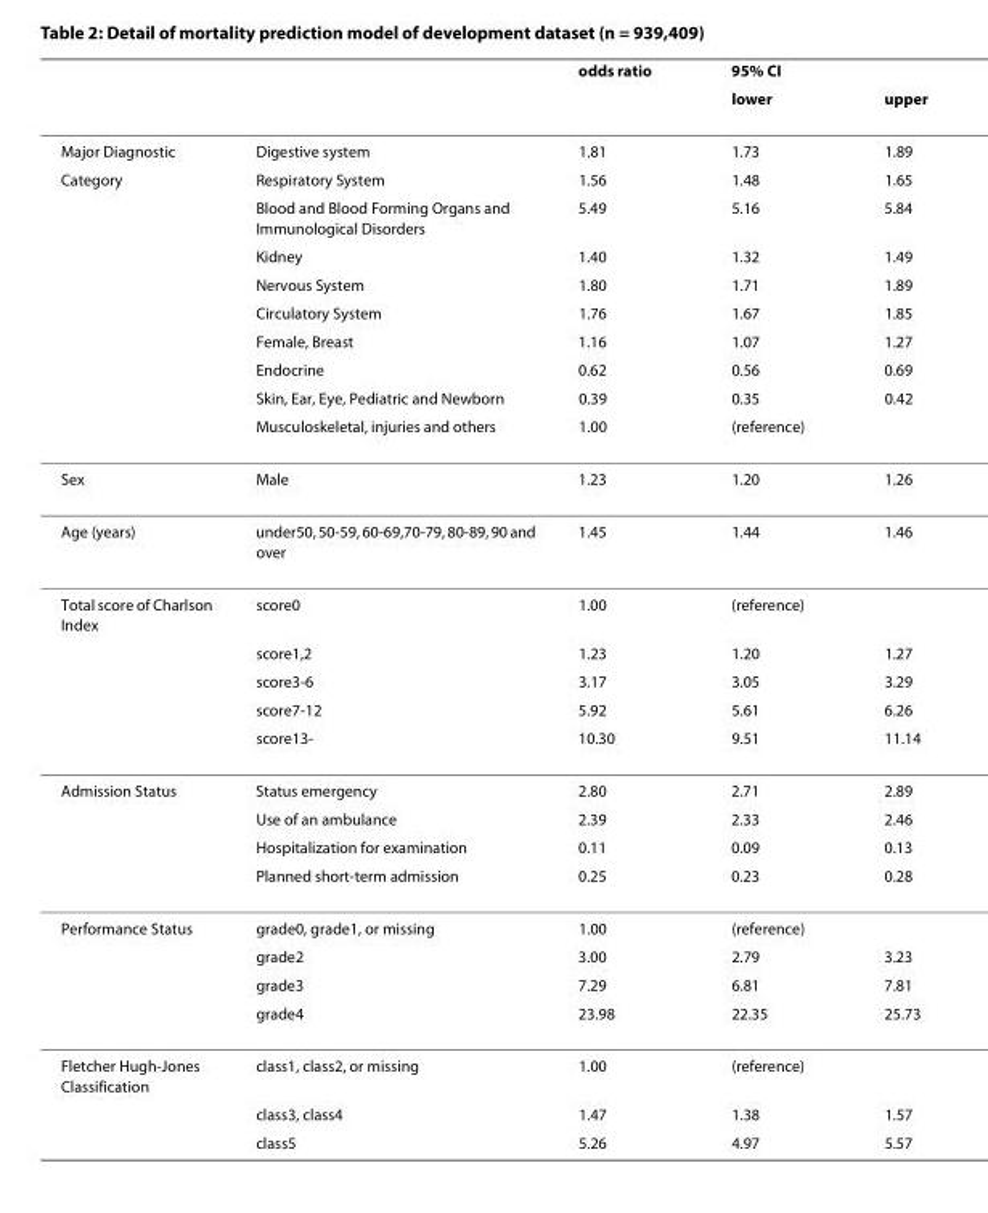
<table><thead><tr><td rowspan="2"></td><td rowspan="2"></td><td rowspan="2">odds ratio</td><td colspan="2">95% CI</td></tr><tr><td>lower</td><td>upper</td></tr></thead><tbody><tr><td>Major Diagnostic</td><td>Digestive system</td><td>1.81</td><td>1.73</td><td>1.89</td></tr><tr><td rowspan="9">Category</td><td>Respiratory System</td><td>1.56</td><td>1.48</td><td>1.65</td></tr><tr><td>Blood and Blood Forming Organs and Immunological Disorders</td><td>5.49</td><td>5.16</td><td>5.84</td></tr><tr><td>Kidney</td><td>1.40</td><td>1.32</td><td>1.49</td></tr><tr><td>Nervous System</td><td>1.80</td><td>1.71</td><td>1.89</td></tr><tr><td>Circulatory System</td><td>1.76</td><td>1.67</td><td>1.85</td></tr><tr><td>Female, Breast</td><td>1.16</td><td>1.07</td><td>1.27</td></tr><tr><td>Endocrine</td><td>0.62</td><td>0.56</td><td>0.69</td></tr><tr><td>Skin, Ear, Eye, Pediatric and Newborn</td><td>0.39</td><td>0.35</td><td>0.42</td></tr><tr><td>Musculoskeletal, injuries and others</td><td>1.00</td><td>(reference)</td><td></td></tr><tr><td>Sex</td><td>Male</td><td>1.23</td><td>1.20</td><td>1.26</td></tr><tr><td>Age (years)</td><td>under50, 50-59, 60-69,70-79, 80-89, 90 and over</td><td>1.45</td><td>1.44</td><td>1.46</td></tr><tr><td rowspan="5">Total score of Charlson Index</td><td>score0</td><td>1.00</td><td>(reference)</td><td></td></tr><tr><td>score1,2</td><td>1.23</td><td>1.20</td><td>1.27</td></tr><tr><td>score3-6</td><td>3.17</td><td>3.05</td><td>3.29</td></tr><tr><td>score7-12</td><td>5.92</td><td>5.61</td><td>6.26</td></tr><tr><td>score13-</td><td>10.30</td><td>9.51</td><td>11.14</td></tr><tr><td rowspan="4">Admission Status</td><td>Status emergency</td><td>2.80</td><td>2.71</td><td>2.89</td></tr><tr><td>Use of an ambulance</td><td>2.39</td><td>2.33</td><td>2.46</td></tr><tr><td>Hospitalization for examination</td><td>0.11</td><td>0.09</td><td>0.13</td></tr><tr><td>Planned short-term admission</td><td>0.25</td><td>0.23</td><td>0.28</td></tr><tr><td rowspan="4">Performance Status</td><td>grade0, grade1, or missing</td><td>1.00</td><td>(reference)</td><td></td></tr><tr><td>grade2</td><td>3.00</td><td>2.79</td><td>3.23</td></tr><tr><td>grade3</td><td>7.29</td><td>6.81</td><td>7.81</td></tr><tr><td>grade4</td><td>23.98</td><td>22.35</td><td>25.73</td></tr><tr><td rowspan="3">Fletcher Hugh-Jones Classification</td><td>class1, class2, or missing</td><td>1.00</td><td>(reference)</td><td></td></tr><tr><td>class3, class4</td><td>1.47</td><td>1.38</td><td>1.57</td></tr><tr><td>class5</td><td>5.26</td><td>4.97</td><td>5.57</td></tr></tbody></table>